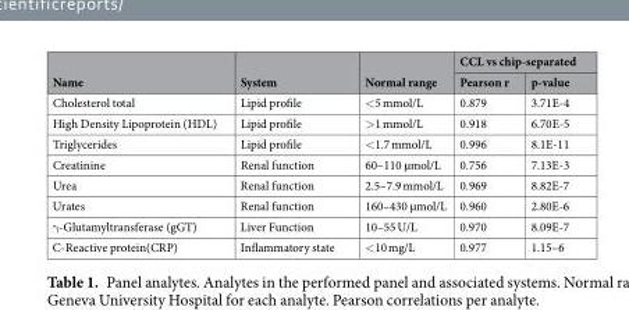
<table><thead><tr><td rowspan="2">Name</td><td rowspan="2">System</td><td rowspan="2">Normal range</td><td colspan="2">CCL vs chip-separated</td></tr><tr><td>Pearson r</td><td>p-value</td></tr></thead><tbody><tr><td>Cholesterol total</td><td>Lipid profile</td><td>&lt;5 mmol/L</td><td>0.879</td><td>3.71E-4</td></tr><tr><td>High Density Lipoprotein (HDL)</td><td>Lipid profile</td><td>&gt;1 mmol/L</td><td>0.918</td><td>6.70E-5</td></tr><tr><td>Triglycerides</td><td>Lipid profile</td><td>&lt;1.7 mmol/L</td><td>0.996</td><td>8.1E-11</td></tr><tr><td>Creatinine</td><td>Renal function</td><td>60–110 µmol/L</td><td>0.756</td><td>7.13E-3</td></tr><tr><td>Urea</td><td>Renal function</td><td>2.5–7.9 mmol/L</td><td>0.969</td><td>8.82E-7</td></tr><tr><td>Urates</td><td>Renal function</td><td>160–430 µmol/L</td><td>0.960</td><td>2.80E-6</td></tr><tr><td>γ-Glutamyltransferase (gGT)</td><td>Liver Function</td><td>10–55 U/L</td><td>0.970</td><td>8.09E-7</td></tr><tr><td>C-Reactive protein(CRP)</td><td>Inflammatory state</td><td>&lt;10 mg/L</td><td>0.977</td><td>1.15–6</td></tr></tbody></table>